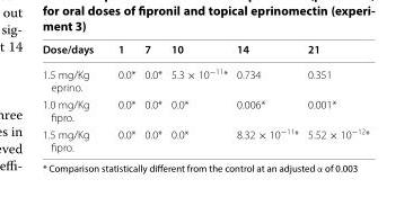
<table><thead><tr><td>Dose/days</td><td>1</td><td>7</td><td>10</td><td>14</td><td>21</td></tr></thead><tbody><tr><td>1.5 mg/Kg eprino.</td><td>0.0*</td><td>0.0*</td><td>5.3 × 10<sup>−11</sup>*</td><td>0.734</td><td>0.351</td></tr><tr><td>1.0 mg/Kg fipro.</td><td>0.0*</td><td>0.0*</td><td>0.0*</td><td>0.006*</td><td>0.001*</td></tr><tr><td>1.5 mg/Kg fipro.</td><td>0.0*</td><td>0.0*</td><td>0.0*</td><td>8.32 × 10<sup>−11</sup>*</td><td>5.52 × 10<sup>−12</sup>*</td></tr></tbody></table>